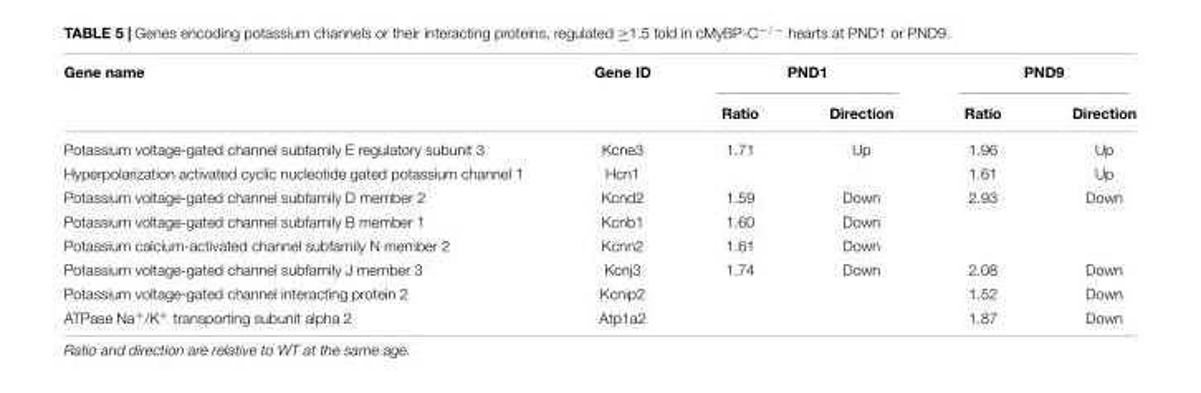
<table><thead><tr><td rowspan="2">Gene name</td><td rowspan="2">Gene ID</td><td colspan="2">PND1</td><td colspan="2">PND9</td></tr><tr><td>Ratio</td><td>Direction</td><td>Ratio</td><td>Direction</td></tr></thead><tbody><tr><td>Potassium voltage-gated channel subfamily E regulatory subunit 3</td><td>Kcne3</td><td>1.71</td><td>Up</td><td>1.96</td><td>Up</td></tr><tr><td>Hyperpolarization activated cyclic nucleotide gated potassium channel 1</td><td>Hcn1</td><td></td><td></td><td>1.61</td><td>Up</td></tr><tr><td>Potassium voltage-gated channel subfamily D member 2</td><td>Kcnd2</td><td>1.59</td><td>Down</td><td>2.93</td><td>Down</td></tr><tr><td>Potassium voltage-gated channel subfamily B member 1</td><td>Kcnb1</td><td>1.60</td><td>Down</td><td></td><td></td></tr><tr><td>Potassium calcium-activated channel subfamily N member 2</td><td>Kcnn2</td><td>1.61</td><td>Down</td><td></td><td></td></tr><tr><td>Potassium voltage-gated channel subfamily J member 3</td><td>Kcnj3</td><td>1.74</td><td>Down</td><td>2.08</td><td>Down</td></tr><tr><td>Potassium voltage-gated channel interacting protein 2</td><td>Kcnip2</td><td></td><td></td><td>1.52</td><td>Down</td></tr><tr><td>ATPase Na<sup>+</sup>/K<sup>+</sup> transporting subunit alpha 2</td><td>Atp1a2</td><td></td><td></td><td>1.87</td><td>Down</td></tr></tbody></table>